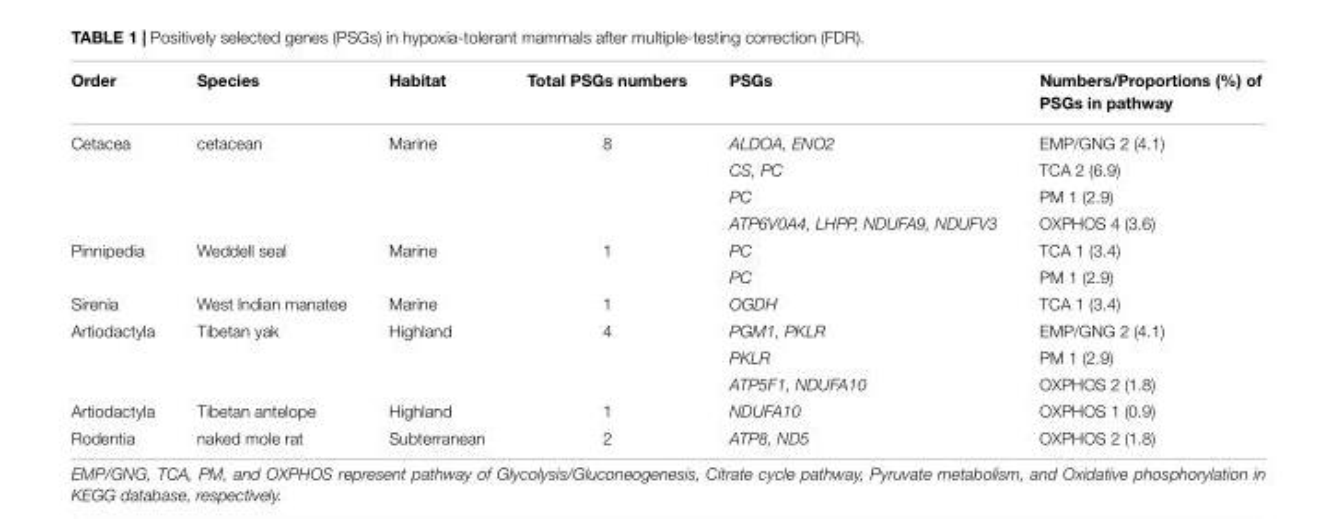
<table><thead><tr><td>Order</td><td>Species</td><td>Habitat</td><td>Total PSGs numbers</td><td>PSGs</td><td>Numbers/Proportions (%) of PSGs in pathway</td></tr></thead><tbody><tr><td rowspan="4">Cetacea</td><td>cetacean</td><td>Marine</td><td>8</td><td>ALDOA, ENO2</td><td>EMP/GNG 2 (4.1)</td></tr><tr><td></td><td></td><td></td><td>CS, PC</td><td>TCA 2 (6.9)</td></tr><tr><td></td><td></td><td></td><td>PC</td><td>PM 1 (2.9)</td></tr><tr><td></td><td></td><td></td><td>ATP6V0A4, LHPP, NDUFA9, NDUFV3</td><td>OXPHOS 4 (3.6)</td></tr><tr><td rowspan="2">Pinnipedia</td><td>Weddell seal</td><td>Marine</td><td>1</td><td>PC</td><td>TCA 1 (3.4)</td></tr><tr><td></td><td></td><td></td><td>PC</td><td>PM 1 (2.9)</td></tr><tr><td>Sirenia</td><td>West Indian manatee</td><td>Marine</td><td>1</td><td>OGDH</td><td>TCA 1 (3.4)</td></tr><tr><td rowspan="3">Artiodactyla</td><td>Tibetan yak</td><td>Highland</td><td>4</td><td>PGM1, PKLR</td><td>EMP/GNG 2 (4.1)</td></tr><tr><td></td><td></td><td></td><td>PKLR</td><td>PM 1 (2.9)</td></tr><tr><td></td><td></td><td></td><td>ATP5F1, NDUFA10</td><td>OXPHOS 2 (1.8)</td></tr><tr><td>Artiodactyla</td><td>Tibetan antelope</td><td>Highland</td><td>1</td><td>NDUFA10</td><td>OXPHOS 1 (0.9)</td></tr><tr><td>Rodentia</td><td>naked mole rat</td><td>Subterranean</td><td>2</td><td>ATP8, ND5</td><td>OXPHOS 2 (1.8)</td></tr></tbody></table>